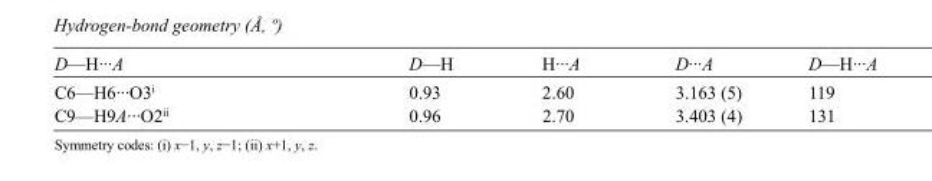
<table><tbody><tr><td>D—H···A</td><td>D—H</td><td>H···A</td><td>D···A</td><td>D—H···A</td></tr><tr><td>C6—H6···O3<sup>i</sup></td><td>0.93</td><td>2.60</td><td>3.163 (5)</td><td>119</td></tr><tr><td>C9—H9A···O2<sup>ii</sup></td><td>0.96</td><td>2.70</td><td>3.403 (4)</td><td>131</td></tr></tbody></table>